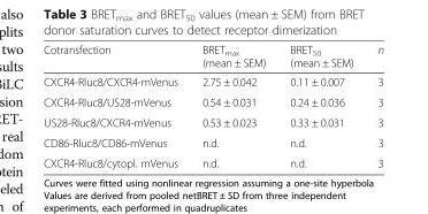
<table><thead><tr><td>Cotransfection</td><td>BRET<sub>max</sub> (mean ± SEM)</td><td>BRET<sub>50</sub> (mean ± SEM)</td><td>n</td></tr></thead><tbody><tr><td>CXCR4-Rluc8/CXCR4-mVenus</td><td>2.75 ± 0.042</td><td>0.11 ± 0.007</td><td>3</td></tr><tr><td>CXCR4-Rluc8/US28-mVenus</td><td>0.54 ± 0.031</td><td>0.24 ± 0.036</td><td>3</td></tr><tr><td>US28-Rluc8/CXCR4-mVenus</td><td>0.53 ± 0.023</td><td>0.33 ± 0.031</td><td>3</td></tr><tr><td>CD86-Rluc8/CD86-mVenus</td><td>n.d.</td><td>n.d.</td><td>3</td></tr><tr><td>CXCR4-Rluc8/cytopl. mVenus</td><td>n.d.</td><td>n.d.</td><td>3</td></tr></tbody></table>